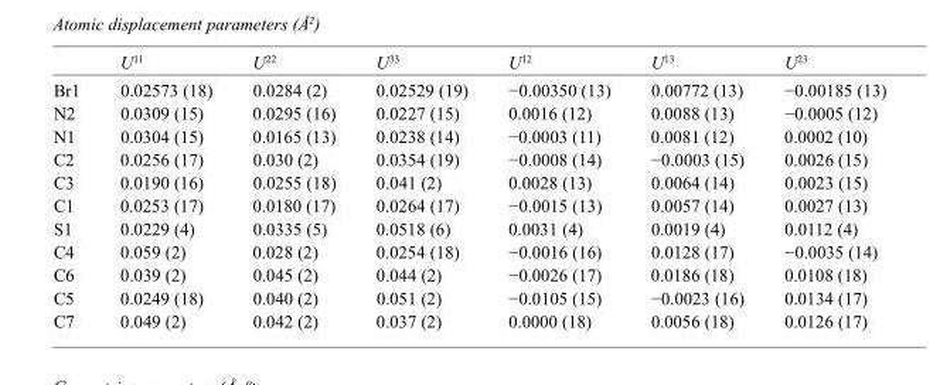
<table><thead><tr><td></td><td>U<sup>11</sup></td><td>U<sup>22</sup></td><td>U<sup>33</sup></td><td>U<sup>12</sup></td><td>U<sup>13</sup></td><td>U<sup>23</sup></td></tr></thead><tbody><tr><td>Br1</td><td>0.02573 (18)</td><td>0.0284 (2)</td><td>0.02529 (19)</td><td>−0.00350 (13)</td><td>0.00772 (13)</td><td>−0.00185 (13)</td></tr><tr><td>N2</td><td>0.0309 (15)</td><td>0.0295 (16)</td><td>0.0227 (15)</td><td>0.0016 (12)</td><td>0.0088 (13)</td><td>−0.0005 (12)</td></tr><tr><td>N1</td><td>0.0304 (15)</td><td>0.0165 (13)</td><td>0.0238 (14)</td><td>−0.0003 (11)</td><td>0.0081 (12)</td><td>0.0002 (10)</td></tr><tr><td>C2</td><td>0.0256 (17)</td><td>0.030 (2)</td><td>0.0354 (19)</td><td>−0.0008 (14)</td><td>−0.0003 (15)</td><td>0.0026 (15)</td></tr><tr><td>C3</td><td>0.0190 (16)</td><td>0.0255 (18)</td><td>0.041 (2)</td><td>0.0028 (13)</td><td>0.0064 (14)</td><td>0.0023 (15)</td></tr><tr><td>C1</td><td>0.0253 (17)</td><td>0.0180 (17)</td><td>0.0264 (17)</td><td>−0.0015 (13)</td><td>0.0057 (14)</td><td>0.0027 (13)</td></tr><tr><td>S1</td><td>0.0229 (4)</td><td>0.0335 (5)</td><td>0.0518 (6)</td><td>0.0031 (4)</td><td>0.0019 (4)</td><td>0.0112 (4)</td></tr><tr><td>C4</td><td>0.059 (2)</td><td>0.028 (2)</td><td>0.0254 (18)</td><td>−0.0016 (16)</td><td>0.0128 (17)</td><td>−0.0035 (14)</td></tr><tr><td>C6</td><td>0.039 (2)</td><td>0.045 (2)</td><td>0.044 (2)</td><td>−0.0026 (17)</td><td>0.0186 (18)</td><td>0.0108 (18)</td></tr><tr><td>C5</td><td>0.0249 (18)</td><td>0.040 (2)</td><td>0.051 (2)</td><td>−0.0105 (15)</td><td>−0.0023 (16)</td><td>0.0134 (17)</td></tr><tr><td>C7</td><td>0.049 (2)</td><td>0.042 (2)</td><td>0.037 (2)</td><td>0.0000 (18)</td><td>0.0056 (18)</td><td>0.0126 (17)</td></tr></tbody></table>